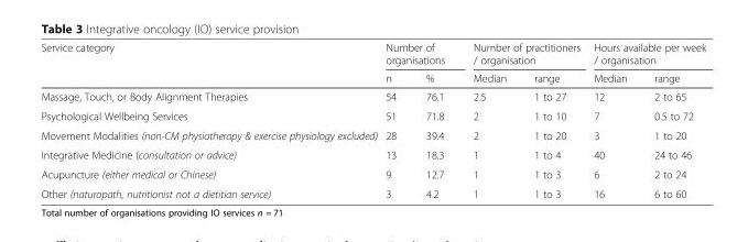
<table><thead><tr><td rowspan="2">Service category</td><td colspan="2">Number of organisations</td><td colspan="2">Number of practitioners / organisation</td><td colspan="2">Hours available per week / organisation</td></tr><tr><td>n</td><td>%</td><td>Median</td><td>range</td><td>Median</td><td>range</td></tr></thead><tbody><tr><td>Massage, Touch, or Body Alignment Therapies</td><td>54</td><td>76.1</td><td>2.5</td><td>1 to 27</td><td>12</td><td>2 to 65</td></tr><tr><td>Psychological Wellbeing Services</td><td>51</td><td>71.8</td><td>2</td><td>1 to 10</td><td>7</td><td>0.5 to 72</td></tr><tr><td>Movement Modalities (non-CM physiotherapy &amp; exercise physiology excluded)</td><td>28</td><td>39.4</td><td>2</td><td>1 to 20</td><td>3</td><td>1 to 20</td></tr><tr><td>Integrative Medicine (consultation or advice)</td><td>13</td><td>18.3</td><td>1</td><td>1 to 4</td><td>40</td><td>24 to 46</td></tr><tr><td>Acupuncture (either medical or Chinese)</td><td>9</td><td>12.7</td><td>1</td><td>1 to 3</td><td>6</td><td>2 to 24</td></tr><tr><td>Other (naturopath, nutritionist not a dietitian service)</td><td>3</td><td>4.2</td><td>1</td><td>1 to 3</td><td>16</td><td>6 to 60</td></tr></tbody></table>